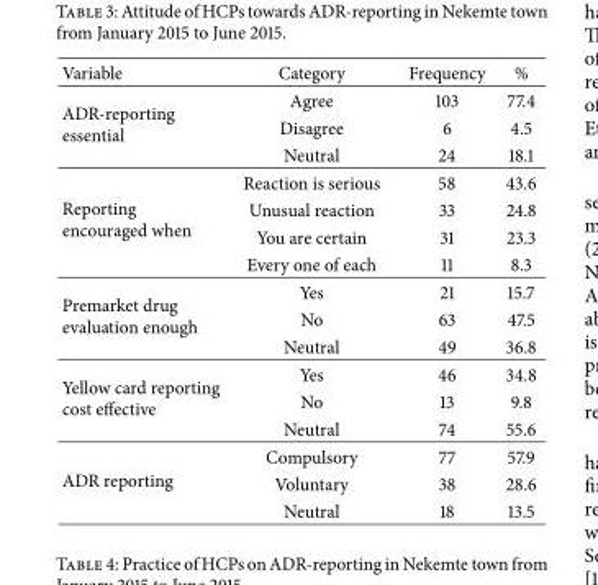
<table><thead><tr><td>Variable</td><td>Category</td><td>Frequency</td><td>%</td></tr></thead><tbody><tr><td rowspan="3">ADR-reporting essential</td><td>Agree</td><td>103</td><td>77.4</td></tr><tr><td>Disagree</td><td>6</td><td>4.5</td></tr><tr><td>Neutral</td><td>24</td><td>18.1</td></tr><tr><td rowspan="4">Reporting encouraged when</td><td>Reaction is serious</td><td>58</td><td>43.6</td></tr><tr><td>Unusual reaction</td><td>33</td><td>24.8</td></tr><tr><td>You are certain</td><td>31</td><td>23.3</td></tr><tr><td>Every one of each</td><td>11</td><td>8.3</td></tr><tr><td rowspan="3">Premarket drug evaluation enough</td><td>Yes</td><td>21</td><td>15.7</td></tr><tr><td>No</td><td>63</td><td>47.5</td></tr><tr><td>Neutral</td><td>49</td><td>36.8</td></tr><tr><td rowspan="3">Yellow card reporting cost effective</td><td>Yes</td><td>46</td><td>34.8</td></tr><tr><td>No</td><td>13</td><td>9.8</td></tr><tr><td>Neutral</td><td>74</td><td>55.6</td></tr><tr><td rowspan="3">ADR reporting</td><td>Compulsory</td><td>77</td><td>57.9</td></tr><tr><td>Voluntary</td><td>38</td><td>28.6</td></tr><tr><td>Neutral</td><td>18</td><td>13.5</td></tr></tbody></table>